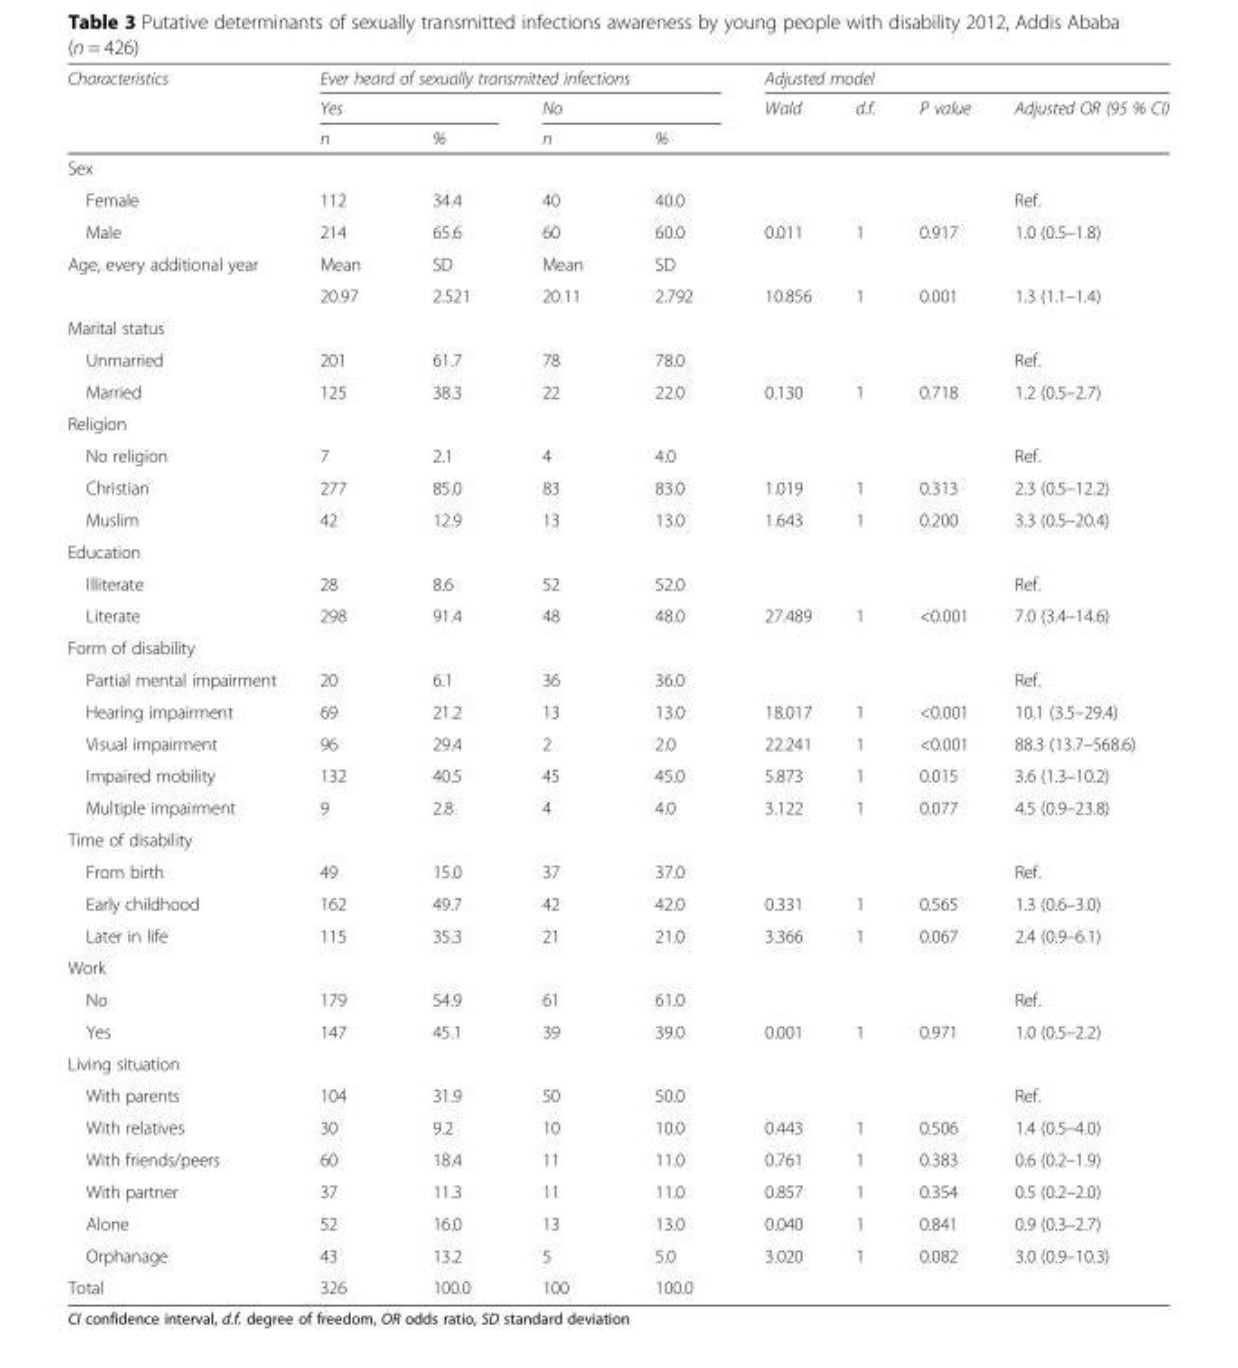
<table><thead><tr><td rowspan="3">Characteristics</td><td colspan="4">Ever heard of sexually transmitted infections</td><td colspan="4">Adjusted model</td></tr><tr><td colspan="2">Yes</td><td colspan="2">No</td><td rowspan="2">Wald</td><td rowspan="2">d.f.</td><td rowspan="2">P value</td><td rowspan="2">Adjusted OR (95 % CI)</td></tr><tr><td>n</td><td>%</td><td>n</td><td>%</td></tr></thead><tbody><tr><td colspan="9">Sex</td></tr><tr><td>Female</td><td>112</td><td>34.4</td><td>40</td><td>40.0</td><td></td><td></td><td></td><td>Ref.</td></tr><tr><td>Male</td><td>214</td><td>65.6</td><td>60</td><td>60.0</td><td>0.011</td><td>1</td><td>0.917</td><td>1.0 (0.5–1.8)</td></tr><tr><td rowspan="2">Age, every additional year</td><td>Mean</td><td>SD</td><td>Mean</td><td>SD</td><td></td><td></td><td></td><td></td></tr><tr><td>20.97</td><td>2.521</td><td>20.11</td><td>2.792</td><td>10.856</td><td>1</td><td>0.001</td><td>1.3 (1.1–1.4)</td></tr><tr><td colspan="9">Marital status</td></tr><tr><td>Unmarried</td><td>201</td><td>61.7</td><td>78</td><td>78.0</td><td></td><td></td><td></td><td>Ref.</td></tr><tr><td>Married</td><td>125</td><td>38.3</td><td>22</td><td>22.0</td><td>0.130</td><td>1</td><td>0.718</td><td>1.2 (0.5–2.7)</td></tr><tr><td colspan="9">Religion</td></tr><tr><td>No religion</td><td>7</td><td>2.1</td><td>4</td><td>4.0</td><td></td><td></td><td></td><td>Ref.</td></tr><tr><td>Christian</td><td>277</td><td>85.0</td><td>83</td><td>83.0</td><td>1.019</td><td>1</td><td>0.313</td><td>2.3 (0.5–12.2)</td></tr><tr><td>Muslim</td><td>42</td><td>12.9</td><td>13</td><td>13.0</td><td>1.643</td><td>1</td><td>0.200</td><td>3.3 (0.5–20.4)</td></tr><tr><td colspan="9">Education</td></tr><tr><td>Illiterate</td><td>28</td><td>8.6</td><td>52</td><td>52.0</td><td></td><td></td><td></td><td>Ref.</td></tr><tr><td>Literate</td><td>298</td><td>91.4</td><td>48</td><td>48.0</td><td>27.489</td><td>1</td><td>&lt;0.001</td><td>7.0 (3.4–14.6)</td></tr><tr><td colspan="9">Form of disability</td></tr><tr><td>Partial mental impairment</td><td>20</td><td>6.1</td><td>36</td><td>36.0</td><td></td><td></td><td></td><td>Ref.</td></tr><tr><td>Hearing impairment</td><td>69</td><td>21.2</td><td>13</td><td>13.0</td><td>18.017</td><td>1</td><td>&lt;0.001</td><td>10.1 (3.5–29.4)</td></tr><tr><td>Visual impairment</td><td>96</td><td>29.4</td><td>2</td><td>2.0</td><td>22.241</td><td>1</td><td>&lt;0.001</td><td>88.3 (13.7–568.6)</td></tr><tr><td>Impaired mobility</td><td>132</td><td>40.5</td><td>45</td><td>45.0</td><td>5.873</td><td>1</td><td>0.015</td><td>3.6 (1.3–10.2)</td></tr><tr><td>Multiple impairment</td><td>9</td><td>2.8</td><td>4</td><td>4.0</td><td>3.122</td><td>1</td><td>0.077</td><td>4.5 (0.9–23.8)</td></tr><tr><td colspan="9">Time of disability</td></tr><tr><td>From birth</td><td>49</td><td>15.0</td><td>37</td><td>37.0</td><td></td><td></td><td></td><td>Ref.</td></tr><tr><td>Early childhood</td><td>162</td><td>49.7</td><td>42</td><td>42.0</td><td>0.331</td><td>1</td><td>0.565</td><td>1.3 (0.6–3.0)</td></tr><tr><td>Later in life</td><td>115</td><td>35.3</td><td>21</td><td>21.0</td><td>3.366</td><td>1</td><td>0.067</td><td>2.4 (0.9–6.1)</td></tr><tr><td colspan="9">Work</td></tr><tr><td>No</td><td>179</td><td>54.9</td><td>61</td><td>61.0</td><td></td><td></td><td></td><td>Ref.</td></tr><tr><td>Yes</td><td>147</td><td>45.1</td><td>39</td><td>39.0</td><td>0.001</td><td>1</td><td>0.971</td><td>1.0 (0.5–2.2)</td></tr><tr><td colspan="9">Living situation</td></tr><tr><td>With parents</td><td>104</td><td>31.9</td><td>50</td><td>50.0</td><td></td><td></td><td></td><td>Ref.</td></tr><tr><td>With relatives</td><td>30</td><td>9.2</td><td>10</td><td>10.0</td><td>0.443</td><td>1</td><td>0.506</td><td>1.4 (0.5–4.0)</td></tr><tr><td>With friends/peers</td><td>60</td><td>18.4</td><td>11</td><td>11.0</td><td>0.761</td><td>1</td><td>0.383</td><td>0.6 (0.2–1.9)</td></tr><tr><td>With partner</td><td>37</td><td>11.3</td><td>11</td><td>11.0</td><td>0.857</td><td>1</td><td>0.354</td><td>0.5 (0.2–2.0)</td></tr><tr><td>Alone</td><td>52</td><td>16.0</td><td>13</td><td>13.0</td><td>0.040</td><td>1</td><td>0.841</td><td>0.9 (0.3–2.7)</td></tr><tr><td>Orphanage</td><td>43</td><td>13.2</td><td>5</td><td>5.0</td><td>3.020</td><td>1</td><td>0.082</td><td>3.0 (0.9–10.3)</td></tr><tr><td>Total</td><td>326</td><td>100.0</td><td>100</td><td>100.0</td><td></td><td></td><td></td><td></td></tr></tbody></table>